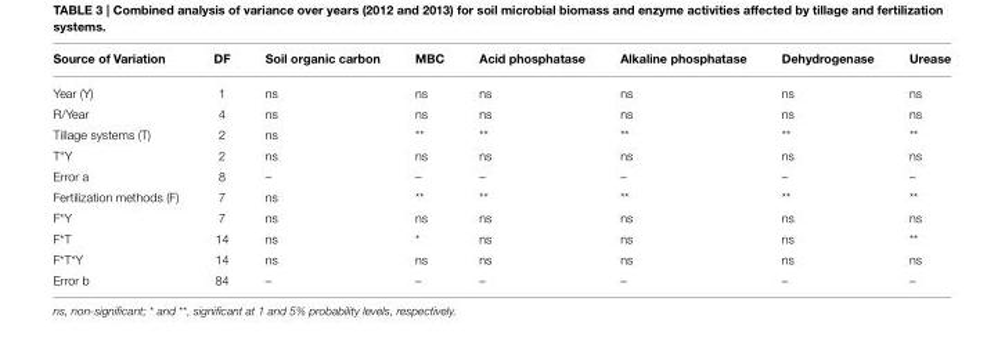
<table><thead><tr><td>Source of Variation</td><td>DF</td><td>Soil organic carbon</td><td>MBC</td><td>Acid phosphatase</td><td>Alkaline phosphatase</td><td>Dehydrogenase</td><td>Urease</td></tr></thead><tbody><tr><td>Year (Y)</td><td>1</td><td>ns</td><td>ns</td><td>ns</td><td>ns</td><td>ns</td><td>ns</td></tr><tr><td>R/Year</td><td>4</td><td>ns</td><td>ns</td><td>ns</td><td>ns</td><td>ns</td><td>ns</td></tr><tr><td>Tillage systems (T)</td><td>2</td><td>ns</td><td>**</td><td>**</td><td>**</td><td>**</td><td>**</td></tr><tr><td>T*Y</td><td>2</td><td>ns</td><td>ns</td><td>ns</td><td>ns</td><td>ns</td><td>ns</td></tr><tr><td>Error a</td><td>8</td><td>–</td><td>–</td><td>–</td><td>–</td><td>–</td><td>–</td></tr><tr><td>Fertilization methods (F)</td><td>7</td><td>ns</td><td>**</td><td>**</td><td>**</td><td>**</td><td>**</td></tr><tr><td>F*Y</td><td>7</td><td>ns</td><td>ns</td><td>ns</td><td>ns</td><td>ns</td><td>ns</td></tr><tr><td>F*T</td><td>14</td><td>ns</td><td>*</td><td>ns</td><td>ns</td><td>ns</td><td>**</td></tr><tr><td>F*T*Y</td><td>14</td><td>ns</td><td>ns</td><td>ns</td><td>ns</td><td>ns</td><td>ns</td></tr><tr><td>Error b</td><td>84</td><td>–</td><td>–</td><td>–</td><td>–</td><td>–</td><td>–</td></tr></tbody></table>